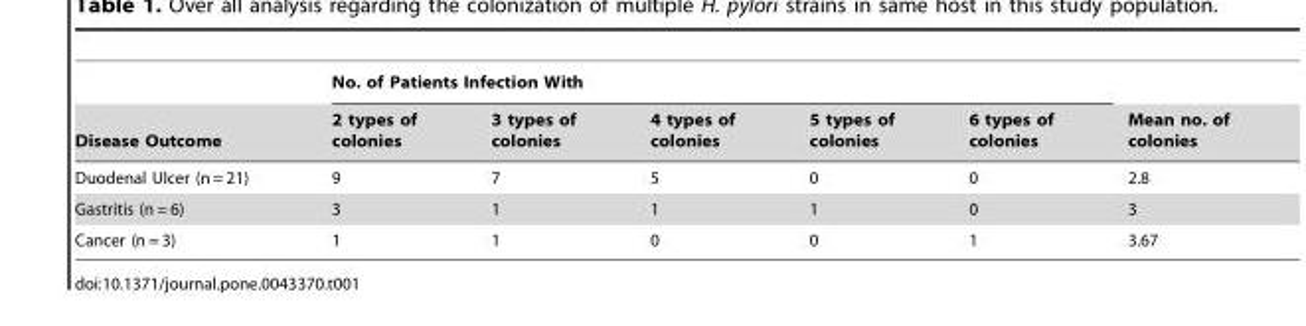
<table><thead><tr><td rowspan="2">Disease Outcome</td><td colspan="5">No. of Patients Infection With</td><td rowspan="2">Mean no. of colonies</td></tr><tr><td>2 types of colonies</td><td>3 types of colonies</td><td>4 types of colonies</td><td>5 types of colonies</td><td>6 types of colonies</td></tr></thead><tbody><tr><td>Duodenal Ulcer (n = 21)</td><td>9</td><td>7</td><td>5</td><td>0</td><td>0</td><td>2.8</td></tr><tr><td>Gastritis (n = 6)</td><td>3</td><td>1</td><td>1</td><td>1</td><td>0</td><td>3</td></tr><tr><td>Cancer (n = 3)</td><td>1</td><td>1</td><td>0</td><td>0</td><td>1</td><td>3.67</td></tr></tbody></table>